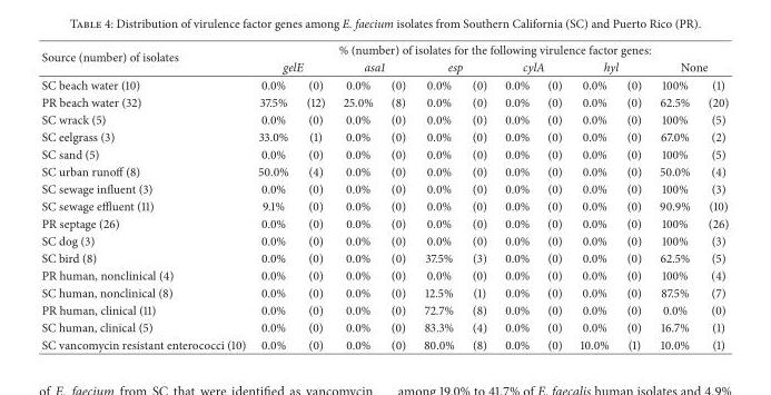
<table><thead><tr><td rowspan="3">Source (number) of isolates SC beach water (10)</td><td colspan="12">% (number) of isolates for the following virulence factor genes:</td></tr><tr><td colspan="2">gelE</td><td colspan="2">asa1</td><td colspan="2">esp</td><td colspan="2">cylA</td><td colspan="2">hyl</td><td colspan="2">None</td></tr><tr><td>0.0%</td><td>(0)</td><td>0.0%</td><td>(0)</td><td>0.0%</td><td>(0)</td><td>0.0%</td><td>(0)</td><td>0.0%</td><td>(0)</td><td>100%</td><td>(1)</td></tr></thead><tbody><tr><td>PR beach water (32)</td><td>37.5%</td><td>(12)</td><td>25.0%</td><td>(8)</td><td>0.0%</td><td>(0)</td><td>0.0%</td><td>(0)</td><td>0.0%</td><td>(0)</td><td>62.5%</td><td>(20)</td></tr><tr><td>SC wrack (5)</td><td>0.0%</td><td>(0)</td><td>0.0%</td><td>(0)</td><td>0.0%</td><td>(0)</td><td>0.0%</td><td>(0)</td><td>0.0%</td><td>(0)</td><td>100%</td><td>(5)</td></tr><tr><td>SC eelgrass (3)</td><td>33.0%</td><td>(1)</td><td>0.0%</td><td>(0)</td><td>0.0%</td><td>(0)</td><td>0.0%</td><td>(0)</td><td>0.0%</td><td>(0)</td><td>67.0%</td><td>(2)</td></tr><tr><td>SC sand (5)</td><td>0.0%</td><td>(0)</td><td>0.0%</td><td>(0)</td><td>0.0%</td><td>(0)</td><td>0.0%</td><td>(0)</td><td>0.0%</td><td>(0)</td><td>100%</td><td>(5)</td></tr><tr><td>SC urban runoff (8)</td><td>50.0%</td><td>(4)</td><td>0.0%</td><td>(0)</td><td>0.0%</td><td>(0)</td><td>0.0%</td><td>(0)</td><td>0.0%</td><td>(0)</td><td>50.0%</td><td>(4)</td></tr><tr><td>SC sewage influent (3)</td><td>0.0%</td><td>(0)</td><td>0.0%</td><td>(0)</td><td>0.0%</td><td>(0)</td><td>0.0%</td><td>(0)</td><td>0.0%</td><td>(0)</td><td>100%</td><td>(3)</td></tr><tr><td>SC sewage effluent (11)</td><td>9.1%</td><td>(0)</td><td>0.0%</td><td>(0)</td><td>0.0%</td><td>(0)</td><td>0.0%</td><td>(0)</td><td>0.0%</td><td>(0)</td><td>90.9%</td><td>(10)</td></tr><tr><td>PR septage (26)</td><td>0.0%</td><td>(0)</td><td>0.0%</td><td>(0)</td><td>0.0%</td><td>(0)</td><td>0.0%</td><td>(0)</td><td>0.0%</td><td>(0)</td><td>100%</td><td>(26)</td></tr><tr><td>SC dog (3)</td><td>0.0%</td><td>(0)</td><td>0.0%</td><td>(0)</td><td>0.0%</td><td>(0)</td><td>0.0%</td><td>(0)</td><td>0.0%</td><td>(0)</td><td>100%</td><td>(3)</td></tr><tr><td>SC bird (8)</td><td>0.0%</td><td>(0)</td><td>0.0%</td><td>(0)</td><td>37.5%</td><td>(3)</td><td>0.0%</td><td>(0)</td><td>0.0%</td><td>(0)</td><td>62.5%</td><td>(5)</td></tr><tr><td>PR human, nonclinical (4)</td><td>0.0%</td><td>(0)</td><td>0.0%</td><td>(0)</td><td>0.0%</td><td>(0)</td><td>0.0%</td><td>(0)</td><td>0.0%</td><td>(0)</td><td>100%</td><td>(4)</td></tr><tr><td>SC human, nonclinical (8)</td><td>0.0%</td><td>(0)</td><td>0.0%</td><td>(0)</td><td>12.5%</td><td>(1)</td><td>0.0%</td><td>(0)</td><td>0.0%</td><td>(0)</td><td>87.5%</td><td>(7)</td></tr><tr><td>PR human, clinical (11)</td><td>0.0%</td><td>(0)</td><td>0.0%</td><td>(0)</td><td>72.7%</td><td>(8)</td><td>0.0%</td><td>(0)</td><td>0.0%</td><td>(0)</td><td>0.0%</td><td>(0)</td></tr><tr><td>SC human, clinical (5)</td><td>0.0%</td><td>(0)</td><td>0.0%</td><td>(0)</td><td>83.3%</td><td>(4)</td><td>0.0%</td><td>(0)</td><td>0.0%</td><td>(0)</td><td>16.7%</td><td>(1)</td></tr><tr><td>SC vancomycin resistant enterococci (10)</td><td>0.0%</td><td>(0)</td><td>0.0%</td><td>(0)</td><td>80.0%</td><td>(8)</td><td>0.0%</td><td>(0)</td><td>10.0%</td><td>(1)</td><td>10.0%</td><td>(1)</td></tr></tbody></table>